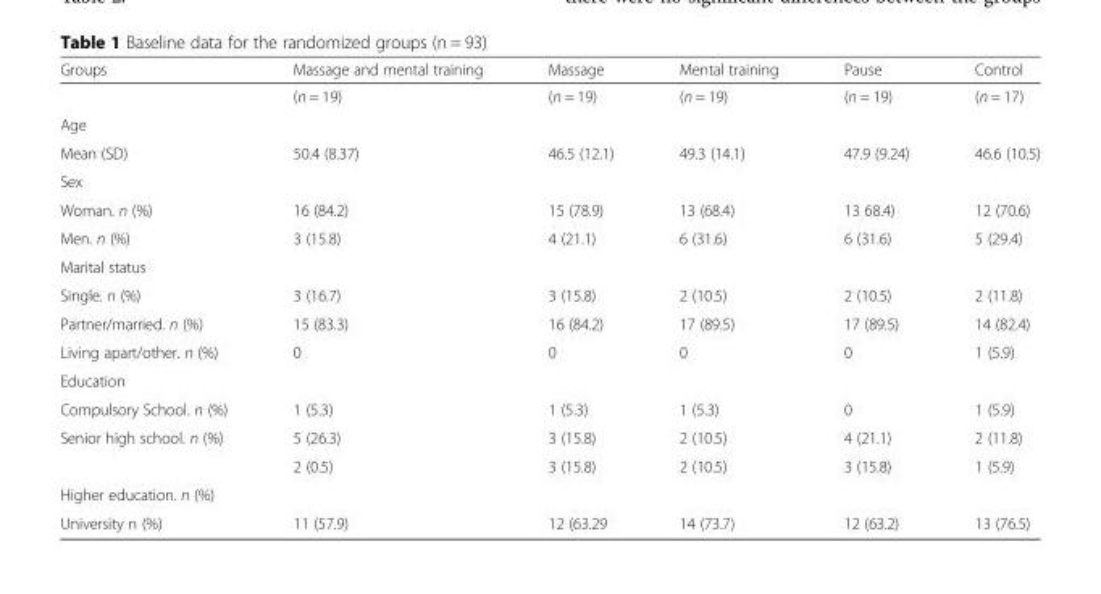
<table><thead><tr><td>Groups</td><td>Massage and mental training</td><td>Massage</td><td>Mental training</td><td>Pause</td><td>Control</td></tr></thead><tbody><tr><td></td><td>(n = 19)</td><td>(n = 19)</td><td>(n = 19)</td><td>(n = 19)</td><td>(n = 17)</td></tr><tr><td colspan="6">Age</td></tr><tr><td>Mean (SD)</td><td>50.4 (8.37)</td><td>46.5 (12.1)</td><td>49.3 (14.1)</td><td>47.9 (9.24)</td><td>46.6 (10.5)</td></tr><tr><td colspan="6">Sex</td></tr><tr><td>Woman. n (%)</td><td>16 (84.2)</td><td>15 (78.9)</td><td>13 (68.4)</td><td>13 68.4)</td><td>12 (70.6)</td></tr><tr><td>Men. n (%)</td><td>3 (15.8)</td><td>4 (21.1)</td><td>6 (31.6)</td><td>6 (31.6)</td><td>5 (29.4)</td></tr><tr><td colspan="6">Marital status</td></tr><tr><td>Single. n (%)</td><td>3 (16.7)</td><td>3 (15.8)</td><td>2 (10.5)</td><td>2 (10.5)</td><td>2 (11.8)</td></tr><tr><td>Partner/married. n (%)</td><td>15 (83.3)</td><td>16 (84.2)</td><td>17 (89.5)</td><td>17 (89.5)</td><td>14 (82.4)</td></tr><tr><td>Living apart/other. n (%)</td><td>0</td><td>0</td><td>0</td><td>0</td><td>1 (5.9)</td></tr><tr><td colspan="6">Education</td></tr><tr><td>Compulsory School. n (%)</td><td>1 (5.3)</td><td>1 (5.3)</td><td>1 (5.3)</td><td>0</td><td>1 (5.9)</td></tr><tr><td rowspan="2">Senior high school. n (%)</td><td>5 (26.3)</td><td>3 (15.8)</td><td>2 (10.5)</td><td>4 (21.1)</td><td>2 (11.8)</td></tr><tr><td>2 (0.5)</td><td>3 (15.8)</td><td>2 (10.5)</td><td>3 (15.8)</td><td>1 (5.9)</td></tr><tr><td colspan="6">Higher education. n (%)</td></tr><tr><td>University n (%)</td><td>11 (57.9)</td><td>12 (63.29</td><td>14 (73.7)</td><td>12 (63.2)</td><td>13 (76.5)</td></tr></tbody></table>